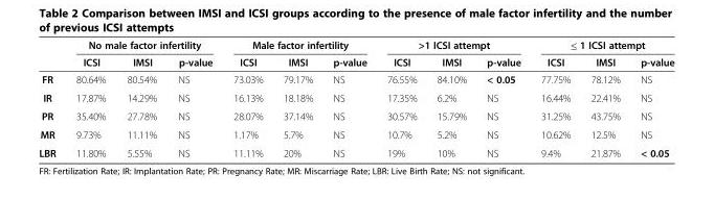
<table><thead><tr><td rowspan="2"></td><td colspan="3">No male factor infertility</td><td colspan="3">Male factor infertility</td><td colspan="3">&gt;1 ICSI attempt</td><td colspan="3">≤ 1 ICSI attempt</td></tr><tr><td>ICSI</td><td>IMSI</td><td>p-value</td><td>ICSI</td><td>IMSI</td><td>p-value</td><td>ICSI</td><td>IMSI</td><td>p-value</td><td>ICSI</td><td>IMSI</td><td>p-value</td></tr></thead><tbody><tr><td>FR</td><td>80.64%</td><td>80.54%</td><td>NS</td><td>73.03%</td><td>79.17%</td><td>NS</td><td>76.55%</td><td>84.10%</td><td>&lt; 0.05</td><td>77.75%</td><td>78.12%</td><td>NS</td></tr><tr><td>IR</td><td>17.87%</td><td>14.29%</td><td>NS</td><td>16.13%</td><td>18.18%</td><td>NS</td><td>17.35%</td><td>6.2%</td><td>NS</td><td>16.44%</td><td>22.41%</td><td>NS</td></tr><tr><td>PR</td><td>35.40%</td><td>27.78%</td><td>NS</td><td>28.07%</td><td>37.14%</td><td>NS</td><td>30.57%</td><td>15.79%</td><td>NS</td><td>31.25%</td><td>43.75%</td><td>NS</td></tr><tr><td>MR</td><td>9.73%</td><td>11.11%</td><td>NS</td><td>1.17%</td><td>5.7%</td><td>NS</td><td>10.7%</td><td>5.2%</td><td>NS</td><td>10.62%</td><td>12.5%</td><td>NS</td></tr><tr><td>LBR</td><td>11.80%</td><td>5.55%</td><td>NS</td><td>11.11%</td><td>20%</td><td>NS</td><td>19%</td><td>10%</td><td>NS</td><td>9.4%</td><td>21.87%</td><td>&lt; 0.05</td></tr></tbody></table>